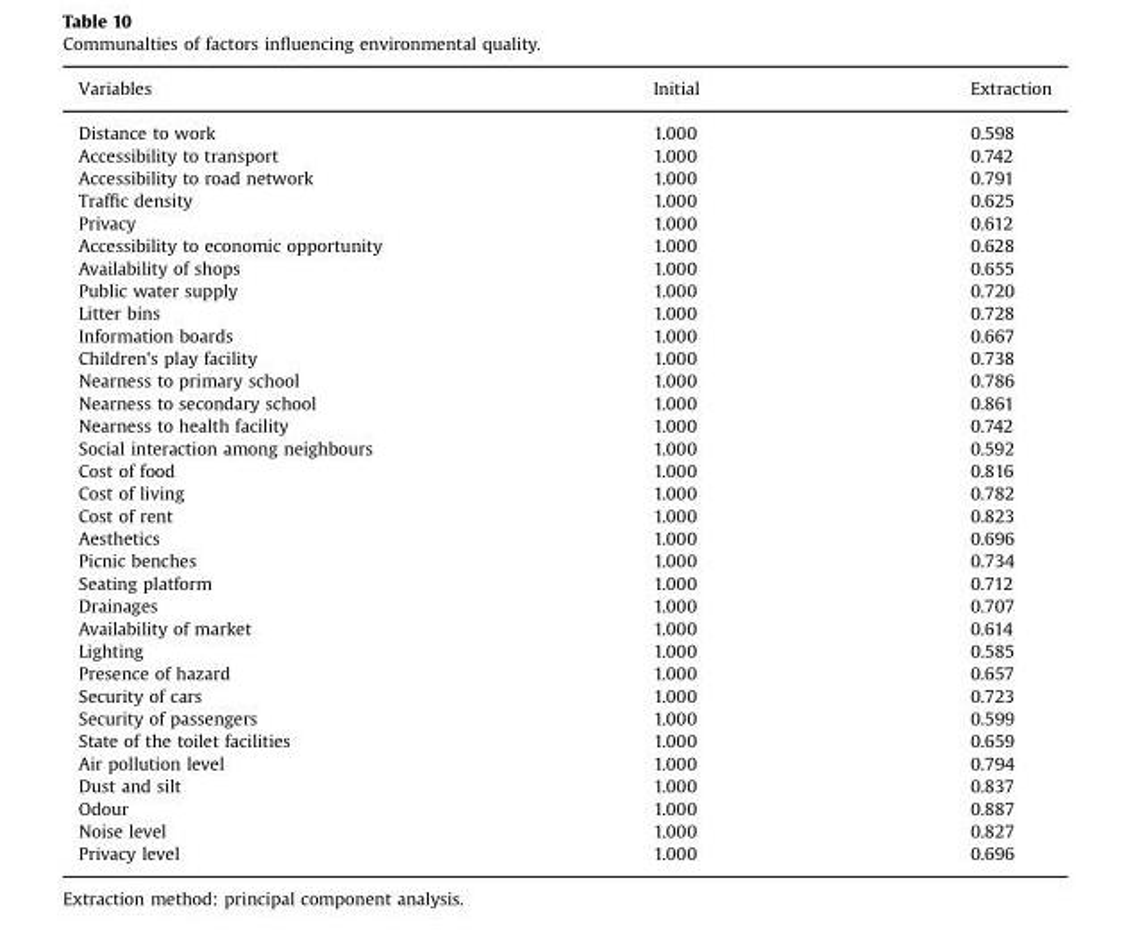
<table><thead><tr><td>Variables</td><td>Initial</td><td>Extraction</td></tr></thead><tbody><tr><td>Distance to work</td><td>1.000</td><td>0.598</td></tr><tr><td>Accessibility to transport</td><td>1.000</td><td>0.742</td></tr><tr><td>Accessibility to road network</td><td>1.000</td><td>0.791</td></tr><tr><td>Traffic density</td><td>1.000</td><td>0.625</td></tr><tr><td>Privacy</td><td>1.000</td><td>0.612</td></tr><tr><td>Accessibility to economic opportunity</td><td>1.000</td><td>0.628</td></tr><tr><td>Availability of shops</td><td>1.000</td><td>0.655</td></tr><tr><td>Public water supply</td><td>1.000</td><td>0.720</td></tr><tr><td>Litter bins</td><td>1.000</td><td>0.728</td></tr><tr><td>Information boards</td><td>1.000</td><td>0.667</td></tr><tr><td>Children&#x27;s play facility</td><td>1.000</td><td>0.738</td></tr><tr><td>Nearness to primary school</td><td>1.000</td><td>0.786</td></tr><tr><td>Nearness to secondary school</td><td>1.000</td><td>0.861</td></tr><tr><td>Nearness to health facility</td><td>1.000</td><td>0.742</td></tr><tr><td>Social interaction among neighbours</td><td>1.000</td><td>0.592</td></tr><tr><td>Cost of food</td><td>1.000</td><td>0.816</td></tr><tr><td>Cost of living</td><td>1.000</td><td>0.782</td></tr><tr><td>Cost of rent</td><td>1.000</td><td>0.823</td></tr><tr><td>Aesthetics</td><td>1.000</td><td>0.696</td></tr><tr><td>Picnic benches</td><td>1.000</td><td>0.734</td></tr><tr><td>Seating platform</td><td>1.000</td><td>0.712</td></tr><tr><td>Drainages</td><td>1.000</td><td>0.707</td></tr><tr><td>Availability of market</td><td>1.000</td><td>0.614</td></tr><tr><td>Lighting</td><td>1.000</td><td>0.585</td></tr><tr><td>Presence of hazard</td><td>1.000</td><td>0.657</td></tr><tr><td>Security of cars</td><td>1.000</td><td>0.723</td></tr><tr><td>Security of passengers</td><td>1.000</td><td>0.599</td></tr><tr><td>State of the toilet facilities</td><td>1.000</td><td>0.659</td></tr><tr><td>Air pollution level</td><td>1.000</td><td>0.794</td></tr><tr><td>Dust and silt</td><td>1.000</td><td>0.837</td></tr><tr><td>Odour</td><td>1.000</td><td>0.887</td></tr><tr><td>Noise level</td><td>1.000</td><td>0.827</td></tr><tr><td>Privacy level</td><td>1.000</td><td>0.696</td></tr></tbody></table>